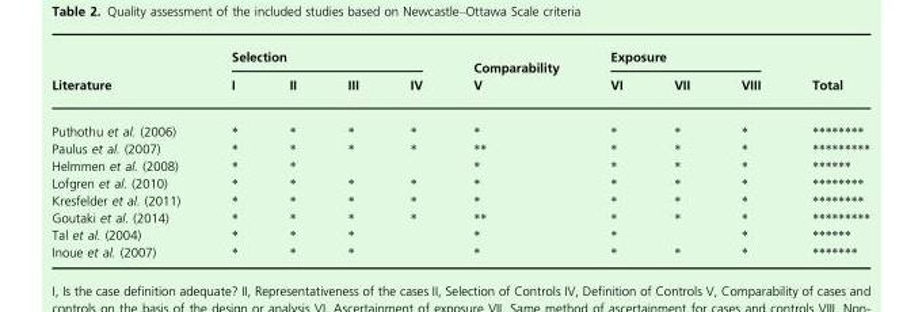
<table><thead><tr><td rowspan="2">Literature</td><td colspan="4">Selection</td><td rowspan="2">Comparability V</td><td colspan="3">Exposure</td><td rowspan="2">Total</td></tr><tr><td>I</td><td>II</td><td>III</td><td>IV</td><td>VI</td><td>VII</td><td>VIII</td></tr></thead><tbody><tr><td>Puthothu et al. (2006)</td><td>*</td><td>*</td><td>*</td><td>*</td><td>*</td><td>*</td><td>*</td><td>*</td><td>********</td></tr><tr><td>Paulus et al. (2007)</td><td>*</td><td>*</td><td>*</td><td>*</td><td>**</td><td>*</td><td>*</td><td>*</td><td>*********</td></tr><tr><td>Helmmen et al. (2008)</td><td>*</td><td>*</td><td></td><td></td><td>*</td><td>*</td><td>*</td><td>*</td><td>******</td></tr><tr><td>Lofgren et al. (2010)</td><td>*</td><td>*</td><td>*</td><td>*</td><td>*</td><td>*</td><td>*</td><td>*</td><td>********</td></tr><tr><td>Kresfelder et al. (2011)</td><td>*</td><td>*</td><td>*</td><td>*</td><td>*</td><td>*</td><td>*</td><td>*</td><td>********</td></tr><tr><td>Goutaki et al. (2014)</td><td>*</td><td>*</td><td>*</td><td>*</td><td>**</td><td>*</td><td>*</td><td>*</td><td>*********</td></tr><tr><td>Tal et al. (2004)</td><td>*</td><td>*</td><td>*</td><td></td><td>*</td><td>*</td><td></td><td>*</td><td>******</td></tr><tr><td>Inoue et al. (2007)</td><td>*</td><td>*</td><td>*</td><td></td><td>*</td><td>*</td><td>*</td><td>*</td><td>*******</td></tr></tbody></table>